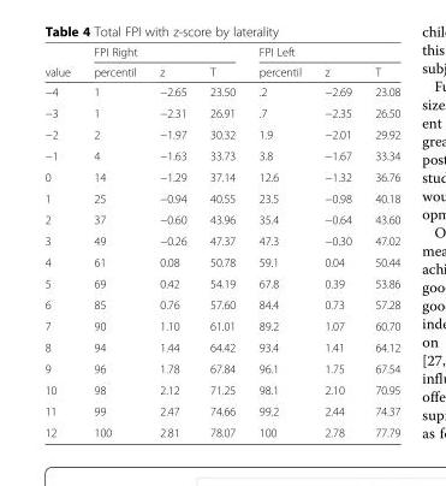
<table><thead><tr><td rowspan="2">value</td><td colspan="3">FPI Right</td><td colspan="3">FPI Left</td></tr><tr><td>percentil</td><td>z</td><td>T</td><td>percentil</td><td>z</td><td>T</td></tr></thead><tbody><tr><td>−4</td><td>1</td><td>−2.65</td><td>23.50</td><td>.2</td><td>−2.69</td><td>23.08</td></tr><tr><td>−3</td><td>1</td><td>−2.31</td><td>26.91</td><td>.7</td><td>−2.35</td><td>26.50</td></tr><tr><td>−2</td><td>2</td><td>−1.97</td><td>30.32</td><td>1.9</td><td>−2.01</td><td>29.92</td></tr><tr><td>−1</td><td>4</td><td>−1.63</td><td>33.73</td><td>3.8</td><td>−1.67</td><td>33.34</td></tr><tr><td>0</td><td>14</td><td>−1.29</td><td>37.14</td><td>12.6</td><td>−1.32</td><td>36.76</td></tr><tr><td>1</td><td>25</td><td>−0.94</td><td>40.55</td><td>23.5</td><td>−0.98</td><td>40.18</td></tr><tr><td>2</td><td>37</td><td>−0.60</td><td>43.96</td><td>35.4</td><td>−0.64</td><td>43.60</td></tr><tr><td>3</td><td>49</td><td>−0.26</td><td>47.37</td><td>47.3</td><td>−0.30</td><td>47.02</td></tr><tr><td>4</td><td>61</td><td>0.08</td><td>50.78</td><td>59.1</td><td>0.04</td><td>50.44</td></tr><tr><td>5</td><td>69</td><td>0.42</td><td>54.19</td><td>67.8</td><td>0.39</td><td>53.86</td></tr><tr><td>6</td><td>85</td><td>0.76</td><td>57.60</td><td>84.4</td><td>0.73</td><td>57.28</td></tr><tr><td>7</td><td>90</td><td>1.10</td><td>61.01</td><td>89.2</td><td>1.07</td><td>60.70</td></tr><tr><td>8</td><td>94</td><td>1.44</td><td>64.42</td><td>93.4</td><td>1.41</td><td>64.12</td></tr><tr><td>9</td><td>96</td><td>1.78</td><td>67.84</td><td>96.1</td><td>1.75</td><td>67.54</td></tr><tr><td>10</td><td>98</td><td>2.12</td><td>71.25</td><td>98.1</td><td>2.10</td><td>70.95</td></tr><tr><td>11</td><td>99</td><td>2.47</td><td>74.66</td><td>99.2</td><td>2.44</td><td>74.37</td></tr><tr><td>12</td><td>100</td><td>2.81</td><td>78.07</td><td>100</td><td>2.78</td><td>77.79</td></tr></tbody></table>